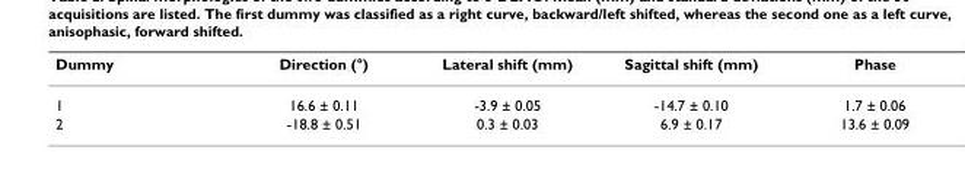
<table><thead><tr><td>Dummy</td><td>Direction (°)</td><td>Lateral shift (mm)</td><td>Sagittal shift (mm)</td><td>Phase</td></tr></thead><tbody><tr><td>1</td><td>16.6 ± 0.11</td><td>-3.9 ± 0.05</td><td>-14.7 ± 0.10</td><td>1.7 ± 0.06</td></tr><tr><td>2</td><td>-18.8 ± 0.51</td><td>0.3 ± 0.03</td><td>6.9 ± 0.17</td><td>13.6 ± 0.09</td></tr></tbody></table>